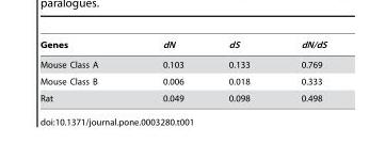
<table><thead><tr><td>Genes</td><td>dN</td><td>dS</td><td>dN/dS</td></tr></thead><tbody><tr><td>Mouse Class A</td><td>0.103</td><td>0.133</td><td>0.769</td></tr><tr><td>Mouse Class B</td><td>0.006</td><td>0.018</td><td>0.333</td></tr><tr><td>Rat</td><td>0.049</td><td>0.098</td><td>0.498</td></tr></tbody></table>